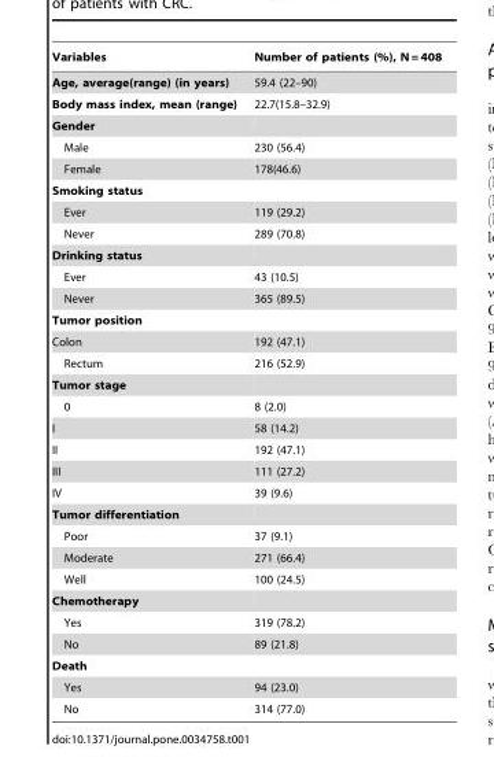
<table><thead><tr><td>Variables</td><td>Number of patients (%), N = 408</td></tr></thead><tbody><tr><td>Age, average(range) (in years)</td><td>59.4 (22–90)</td></tr><tr><td>Body mass index, mean (range)</td><td>22.7(15.8–32.9)</td></tr><tr><td colspan="2">Gender</td></tr><tr><td>Male</td><td>230 (56.4)</td></tr><tr><td>Female</td><td>178(46.6)</td></tr><tr><td colspan="2">Smoking status</td></tr><tr><td>Ever</td><td>119 (29.2)</td></tr><tr><td>Never</td><td>289 (70.8)</td></tr><tr><td colspan="2">Drinking status</td></tr><tr><td>Ever</td><td>43 (10.5)</td></tr><tr><td>Never</td><td>365 (89.5)</td></tr><tr><td colspan="2">Tumor position</td></tr><tr><td>Colon</td><td>192 (47.1)</td></tr><tr><td>Rectum</td><td>216 (52.9)</td></tr><tr><td colspan="2">Tumor stage</td></tr><tr><td>0</td><td>8 (2.0)</td></tr><tr><td>I</td><td>58 (14.2)</td></tr><tr><td>II</td><td>192 (47.1)</td></tr><tr><td>III</td><td>111 (27.2)</td></tr><tr><td>IV</td><td>39 (9.6)</td></tr><tr><td colspan="2">Tumor differentiation</td></tr><tr><td>Poor</td><td>37 (9.1)</td></tr><tr><td>Moderate</td><td>271 (66.4)</td></tr><tr><td>Well</td><td>100 (24.5)</td></tr><tr><td colspan="2">Chemotherapy</td></tr><tr><td>Yes</td><td>319 (78.2)</td></tr><tr><td>No</td><td>89 (21.8)</td></tr><tr><td colspan="2">Death</td></tr><tr><td>Yes</td><td>94 (23.0)</td></tr><tr><td>No</td><td>314 (77.0)</td></tr></tbody></table>